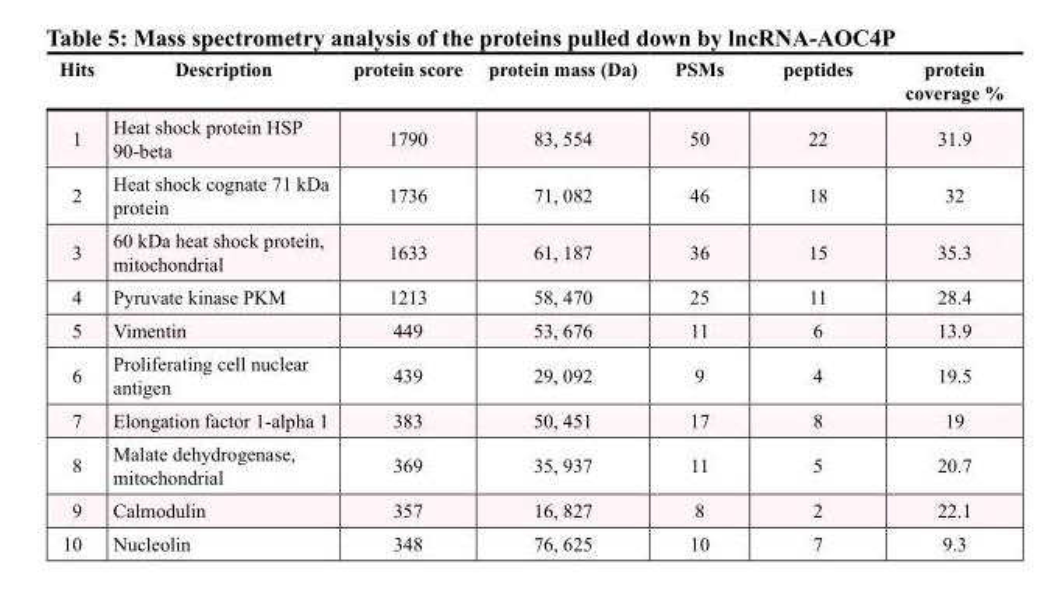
<table><thead><tr><td>Hits</td><td>Description</td><td>protein score</td><td>protein mass (Da)</td><td>PSMs</td><td>peptides</td><td>protein coverage %</td></tr></thead><tbody><tr><td>1</td><td>Heat shock protein HSP 90-beta</td><td>1790</td><td>83, 554</td><td>50</td><td>22</td><td>31.9</td></tr><tr><td>2</td><td>Heat shock cognate 71 kDa protein</td><td>1736</td><td>71, 082</td><td>46</td><td>18</td><td>32</td></tr><tr><td>3</td><td>60 kDa heat shock protein, mitochondrial</td><td>1633</td><td>61, 187</td><td>36</td><td>15</td><td>35.3</td></tr><tr><td>4</td><td>Pyruvate kinase PKM</td><td>1213</td><td>58, 470</td><td>25</td><td>11</td><td>28.4</td></tr><tr><td>5</td><td>Vimentin</td><td>449</td><td>53, 676</td><td>11</td><td>6</td><td>13.9</td></tr><tr><td>6</td><td>Proliferating cell nuclear antigen</td><td>439</td><td>29, 092</td><td>9</td><td>4</td><td>19.5</td></tr><tr><td>7</td><td>Elongation factor 1-alpha 1</td><td>383</td><td>50, 451</td><td>17</td><td>8</td><td>19</td></tr><tr><td>8</td><td>Malate dehydrogenase, mitochondrial</td><td>369</td><td>35, 937</td><td>11</td><td>5</td><td>20.7</td></tr><tr><td>9</td><td>Calmodulin</td><td>357</td><td>16, 827</td><td>8</td><td>2</td><td>22.1</td></tr><tr><td>10</td><td>Nucleolin</td><td>348</td><td>76, 625</td><td>10</td><td>7</td><td>9.3</td></tr></tbody></table>